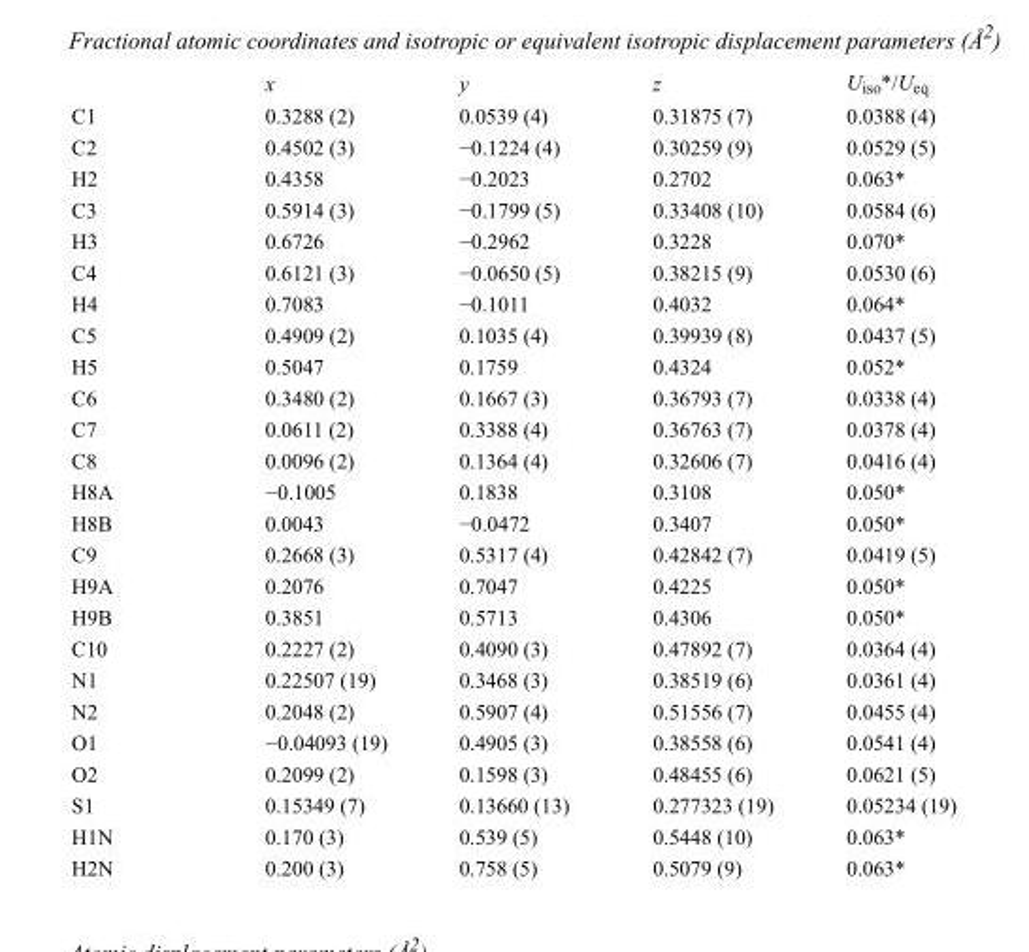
<table><thead><tr><td></td><td>x</td><td>y</td><td>z</td><td>U<sub>iso</sub>*/U<sub>eq</sub></td></tr></thead><tbody><tr><td>C1</td><td>0.3288 (2)</td><td>0.0539 (4)</td><td>0.31875 (7)</td><td>0.0388 (4)</td></tr><tr><td>C2</td><td>0.4502 (3)</td><td>−0.1224 (4)</td><td>0.30259 (9)</td><td>0.0529 (5)</td></tr><tr><td>H2</td><td>0.4358</td><td>−0.2023</td><td>0.2702</td><td>0.063*</td></tr><tr><td>C3</td><td>0.5914 (3)</td><td>−0.1799 (5)</td><td>0.33408 (10)</td><td>0.0584 (6)</td></tr><tr><td>H3</td><td>0.6726</td><td>−0.2962</td><td>0.3228</td><td>0.070*</td></tr><tr><td>C4</td><td>0.6121 (3)</td><td>−0.0650 (5)</td><td>0.38215 (9)</td><td>0.0530 (6)</td></tr><tr><td>H4</td><td>0.7083</td><td>−0.1011</td><td>0.4032</td><td>0.064*</td></tr><tr><td>C5</td><td>0.4909 (2)</td><td>0.1035 (4)</td><td>0.39939 (8)</td><td>0.0437 (5)</td></tr><tr><td>H5</td><td>0.5047</td><td>0.1759</td><td>0.4324</td><td>0.052*</td></tr><tr><td>C6</td><td>0.3480 (2)</td><td>0.1667 (3)</td><td>0.36793 (7)</td><td>0.0338 (4)</td></tr><tr><td>C7</td><td>0.0611 (2)</td><td>0.3388 (4)</td><td>0.36763 (7)</td><td>0.0378 (4)</td></tr><tr><td>C8</td><td>0.0096 (2)</td><td>0.1364 (4)</td><td>0.32606 (7)</td><td>0.0416 (4)</td></tr><tr><td>H8A</td><td>−0.1005</td><td>0.1838</td><td>0.3108</td><td>0.050*</td></tr><tr><td>H8B</td><td>0.0043</td><td>−0.0472</td><td>0.3407</td><td>0.050*</td></tr><tr><td>C9</td><td>0.2668 (3)</td><td>0.5317 (4)</td><td>0.42842 (7)</td><td>0.0419 (5)</td></tr><tr><td>H9A</td><td>0.2076</td><td>0.7047</td><td>0.4225</td><td>0.050*</td></tr><tr><td>H9B</td><td>0.3851</td><td>0.5713</td><td>0.4306</td><td>0.050*</td></tr><tr><td>C10</td><td>0.2227 (2)</td><td>0.4090 (3)</td><td>0.47892 (7)</td><td>0.0364 (4)</td></tr><tr><td>N1</td><td>0.22507 (19)</td><td>0.3468 (3)</td><td>0.38519 (6)</td><td>0.0361 (4)</td></tr><tr><td>N2</td><td>0.2048 (2)</td><td>0.5907 (4)</td><td>0.51556 (7)</td><td>0.0455 (4)</td></tr><tr><td>O1</td><td>−0.04093 (19)</td><td>0.4905 (3)</td><td>0.38558 (6)</td><td>0.0541 (4)</td></tr><tr><td>O2</td><td>0.2099 (2)</td><td>0.1598 (3)</td><td>0.48455 (6)</td><td>0.0621 (5)</td></tr><tr><td>S1</td><td>0.15349 (7)</td><td>0.13660 (13)</td><td>0.277323 (19)</td><td>0.05234 (19)</td></tr><tr><td>H1N</td><td>0.170 (3)</td><td>0.539 (5)</td><td>0.5448 (10)</td><td>0.063*</td></tr><tr><td>H2N</td><td>0.200 (3)</td><td>0.758 (5)</td><td>0.5079 (9)</td><td>0.063*</td></tr></tbody></table>